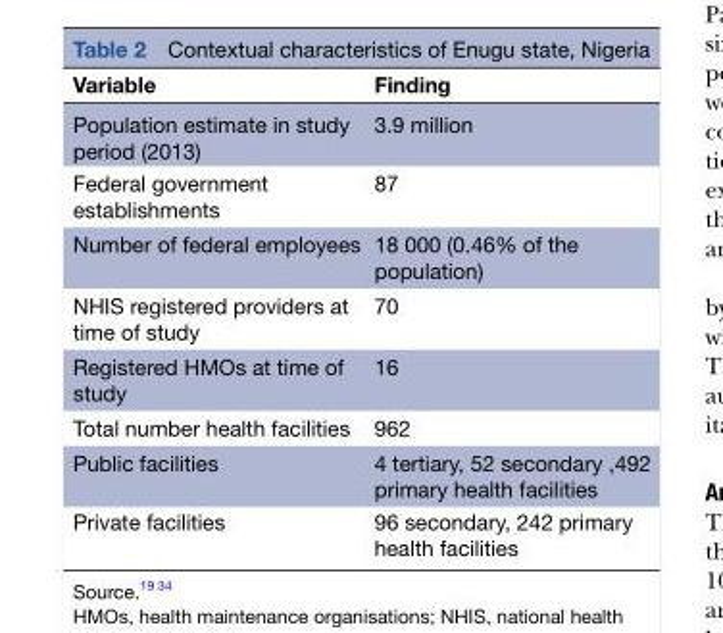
<table><thead><tr><td>Variable</td><td>Finding</td></tr></thead><tbody><tr><td>Population estimate in study period (2013)</td><td>3.9 million</td></tr><tr><td>Federal government establishments</td><td>87</td></tr><tr><td>Number of federal employees</td><td>18 000 (0.46% of the population)</td></tr><tr><td>NHIS registered providers at time of study</td><td>70</td></tr><tr><td>Registered HMOs at time of study</td><td>16</td></tr><tr><td>Total number health facilities</td><td>962</td></tr><tr><td>Public facilities</td><td>4 tertiary, 52 secondary ,492 primary health facilities</td></tr><tr><td>Private facilities</td><td>96 secondary, 242 primary health facilities</td></tr></tbody></table>